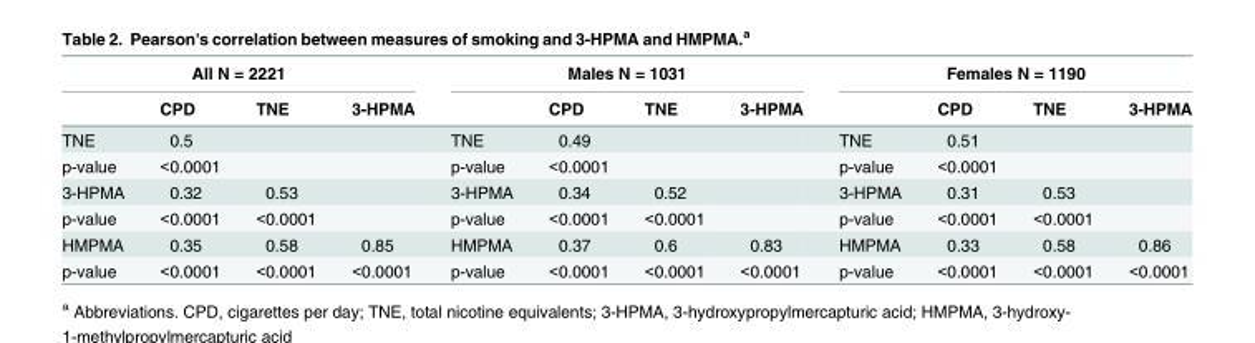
<table><thead><tr><td colspan="4">All N = 2221</td><td colspan="4">Males N = 1031</td><td colspan="4">Females N = 1190</td></tr><tr><td></td><td>CPD</td><td>TNE</td><td>3-HPMA</td><td></td><td>CPD</td><td>TNE</td><td>3-HPMA</td><td></td><td>CPD</td><td>TNE</td><td>3-HPMA</td></tr></thead><tbody><tr><td>TNE</td><td>0.5</td><td></td><td></td><td>TNE</td><td>0.49</td><td></td><td></td><td>TNE</td><td>0.51</td><td></td><td></td></tr><tr><td>p-value</td><td>&lt;0.0001</td><td></td><td></td><td>p-value</td><td>&lt;0.0001</td><td></td><td></td><td>p-value</td><td>&lt;0.0001</td><td></td><td></td></tr><tr><td>3-HPMA</td><td>0.32</td><td>0.53</td><td></td><td>3-HPMA</td><td>0.34</td><td>0.52</td><td></td><td>3-HPMA</td><td>0.31</td><td>0.53</td><td></td></tr><tr><td>p-value</td><td>&lt;0.0001</td><td>&lt;0.0001</td><td></td><td>p-value</td><td>&lt;0.0001</td><td>&lt;0.0001</td><td></td><td>p-value</td><td>&lt;0.0001</td><td>&lt;0.0001</td><td></td></tr><tr><td>HMPMA</td><td>0.35</td><td>0.58</td><td>0.85</td><td>HMPMA</td><td>0.37</td><td>0.6</td><td>0.83</td><td>HMPMA</td><td>0.33</td><td>0.58</td><td>0.86</td></tr><tr><td>p-value</td><td>&lt;0.0001</td><td>&lt;0.0001</td><td>&lt;0.0001</td><td>p-value</td><td>&lt;0.0001</td><td>&lt;0.0001</td><td>&lt;0.0001</td><td>p-value</td><td>&lt;0.0001</td><td>&lt;0.0001</td><td>&lt;0.0001</td></tr></tbody></table>